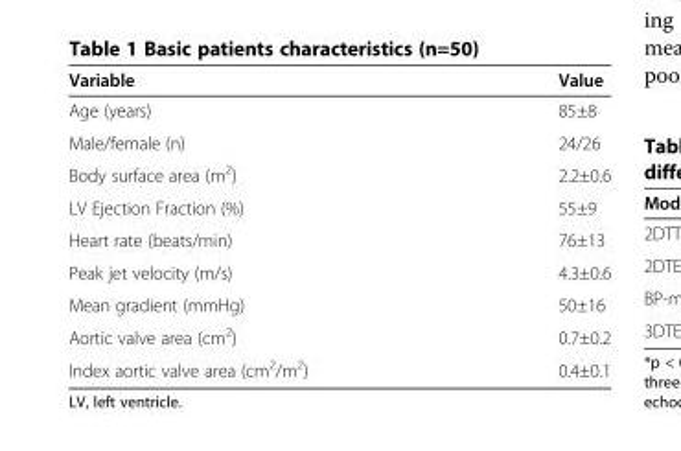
<table><thead><tr><td>Variable</td><td>Value</td></tr></thead><tbody><tr><td>Age (years)</td><td>85±8</td></tr><tr><td>Male/female (n)</td><td>24/26</td></tr><tr><td>Body surface area (m<sup>2</sup>)</td><td>2.2±0.6</td></tr><tr><td>LV Ejection Fraction (%)</td><td>55±9</td></tr><tr><td>Heart rate (beats/min)</td><td>76±13</td></tr><tr><td>Peak jet velocity (m/s)</td><td>4.3±0.6</td></tr><tr><td>Mean gradient (mmHg)</td><td>50±16</td></tr><tr><td>Aortic valve area (cm<sup>2</sup>)</td><td>0.7±0.2</td></tr><tr><td>Index aortic valve area (cm<sup>2</sup>/m<sup>2</sup>)</td><td>0.4±0.1</td></tr></tbody></table>